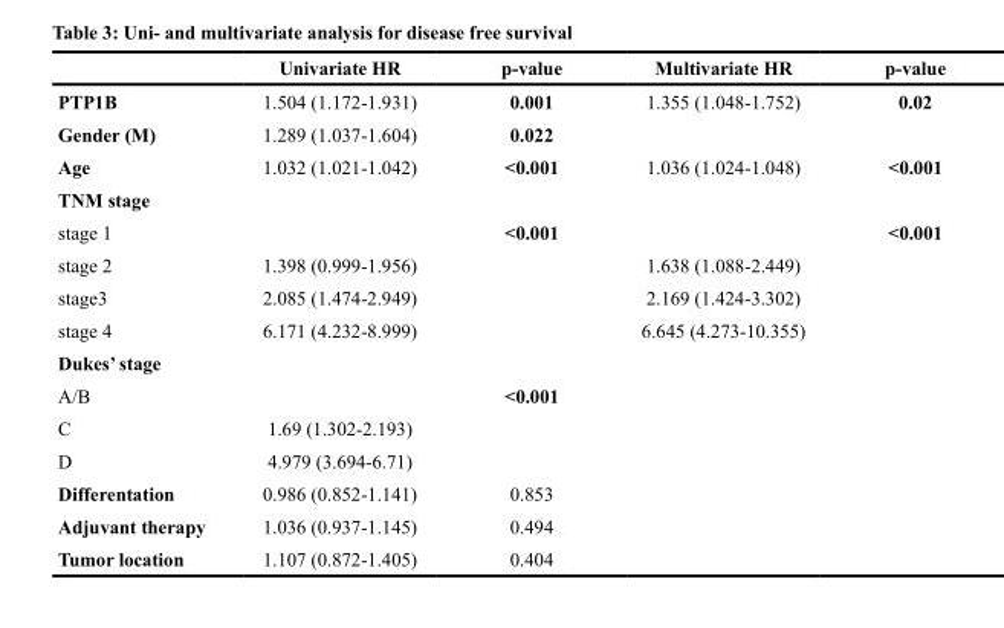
<table><thead><tr><td></td><td>Univariate HR</td><td>p-value</td><td>Multivariate HR</td><td>p-value</td></tr></thead><tbody><tr><td>PTP1B</td><td>1.504 (1.172-1.931)</td><td>0.001</td><td>1.355 (1.048-1.752)</td><td>0.02</td></tr><tr><td>Gender (M)</td><td>1.289 (1.037-1.604)</td><td>0.022</td><td></td><td></td></tr><tr><td>Age</td><td>1.032 (1.021-1.042)</td><td>&lt;0.001</td><td>1.036 (1.024-1.048)</td><td>&lt;0.001</td></tr><tr><td colspan="5">TNM stage</td></tr><tr><td>stage 1</td><td></td><td>&lt;0.001</td><td></td><td>&lt;0.001</td></tr><tr><td>stage 2</td><td>1.398 (0.999-1.956)</td><td></td><td>1.638 (1.088-2.449)</td><td></td></tr><tr><td>stage3</td><td>2.085 (1.474-2.949)</td><td></td><td>2.169 (1.424-3.302)</td><td></td></tr><tr><td>stage 4</td><td>6.171 (4.232-8.999)</td><td></td><td>6.645 (4.273-10.355)</td><td></td></tr><tr><td colspan="5">Dukes’ stage</td></tr><tr><td>A/B</td><td></td><td>&lt;0.001</td><td></td><td></td></tr><tr><td>C</td><td>1.69 (1.302-2.193)</td><td></td><td></td><td></td></tr><tr><td>D</td><td>4.979 (3.694-6.71)</td><td></td><td></td><td></td></tr><tr><td>Differentation</td><td>0.986 (0.852-1.141)</td><td>0.853</td><td></td><td></td></tr><tr><td>Adjuvant therapy</td><td>1.036 (0.937-1.145)</td><td>0.494</td><td></td><td></td></tr><tr><td>Tumor location</td><td>1.107 (0.872-1.405)</td><td>0.404</td><td></td><td></td></tr></tbody></table>